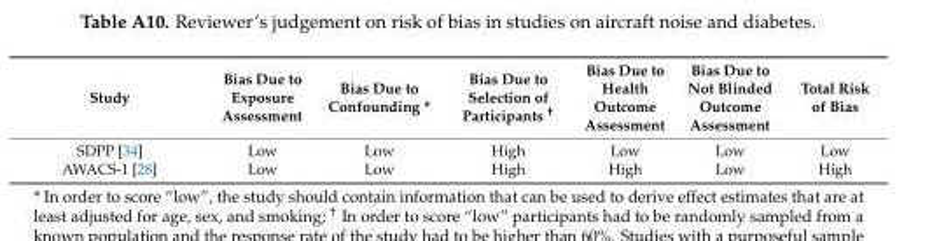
<table><thead><tr><td>Study</td><td>Bias Due to Exposure Assessment</td><td>Bias Due to Confounding *</td><td>Bias Due to Selection of Participants <sup>†</sup></td><td>Bias Due to Health Outcome Assessment</td><td>Bias Due to Not Blinded Outcome Assessment</td><td>Total Risk of Bias</td></tr></thead><tbody><tr><td>SDPP [34]</td><td>Low</td><td>Low</td><td>High</td><td>Low</td><td>Low</td><td>Low</td></tr><tr><td>AWACS-1 [28]</td><td>Low</td><td>Low</td><td>High</td><td>High</td><td>Low</td><td>High</td></tr></tbody></table>